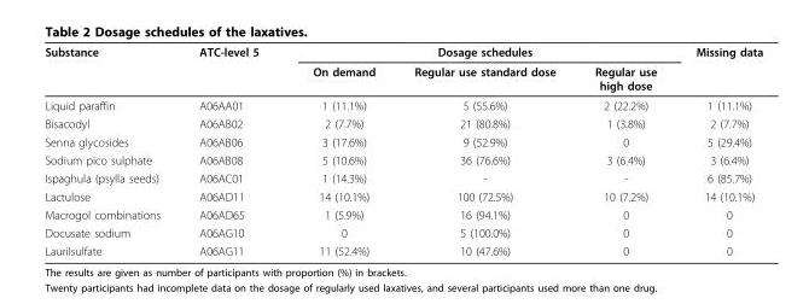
<table><thead><tr><td rowspan="2">Substance</td><td rowspan="2">ATC-level 5</td><td colspan="3">Dosage schedules</td><td rowspan="2">Missing data</td></tr><tr><td>On demand</td><td>Regular use standard dose</td><td>Regular use high dose</td></tr></thead><tbody><tr><td>Liquid paraffin</td><td>A06AA01</td><td>1 (11.1%)</td><td>5 (55.6%)</td><td>2 (22.2%)</td><td>1 (11.1%)</td></tr><tr><td>Bisacodyl</td><td>A06AB02</td><td>2 (7.7%)</td><td>21 (80.8%)</td><td>1 (3.8%)</td><td>2 (7.7%)</td></tr><tr><td>Senna glycosides</td><td>A06AB06</td><td>3 (17.6%)</td><td>9 (52.9%)</td><td>0</td><td>5 (29.4%)</td></tr><tr><td>Sodium pico sulphate</td><td>A06AB08</td><td>5 (10.6%)</td><td>36 (76.6%)</td><td>3 (6.4%)</td><td>3 (6.4%)</td></tr><tr><td>Ispaghula (psylla seeds)</td><td>A06AC01</td><td>1 (14.3%)</td><td>-</td><td>-</td><td>6 (85.7%)</td></tr><tr><td>Lactulose</td><td>A06AD11</td><td>14 (10.1%)</td><td>100 (72.5%)</td><td>10 (7.2%)</td><td>14 (10.1%)</td></tr><tr><td>Macrogol combinations</td><td>A06AD65</td><td>1 (5.9%)</td><td>16 (94.1%)</td><td>0</td><td>0</td></tr><tr><td>Docusate sodium</td><td>A06AG10</td><td>0</td><td>5 (100.0%)</td><td>0</td><td>0</td></tr><tr><td>Laurilsulfate</td><td>A06AG11</td><td>11 (52.4%)</td><td>10 (47.6%)</td><td>0</td><td>0</td></tr></tbody></table>